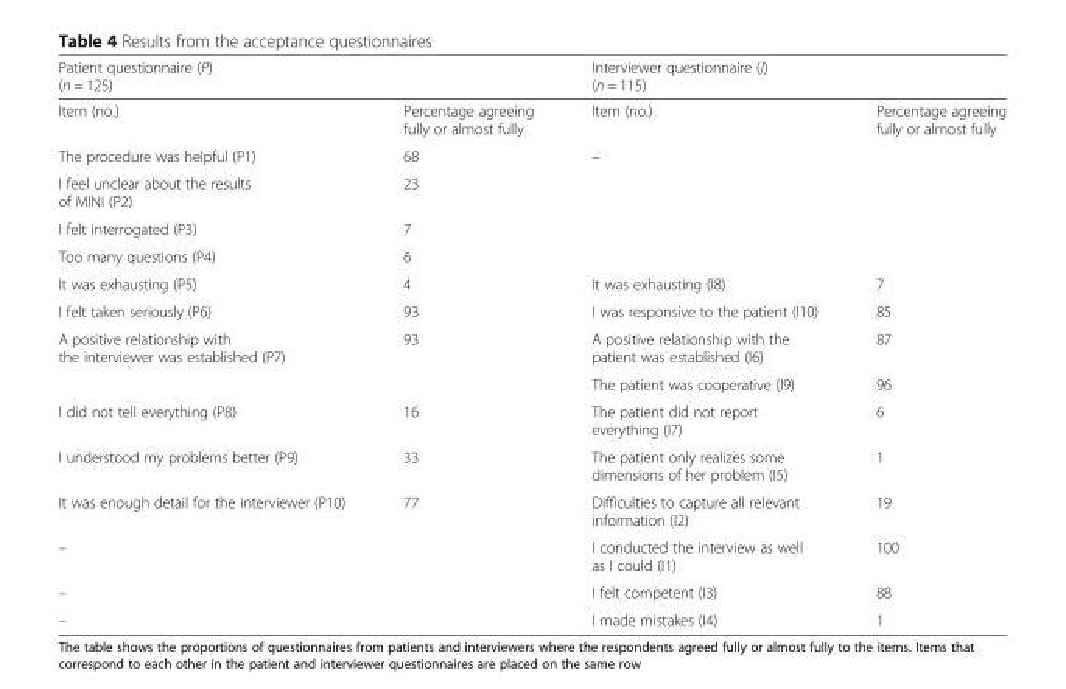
<table><thead><tr><td colspan="2">Patient questionnaire (P) (n = 125)</td><td colspan="2">Interviewer questionnaire (I) (n = 115)</td></tr><tr><td>Item (no.)</td><td>Percentage agreeing fully or almost fully</td><td>Item (no.)</td><td>Percentage agreeing fully or almost fully</td></tr></thead><tbody><tr><td>The procedure was helpful (P1)</td><td>68</td><td rowspan="4">–</td><td rowspan="4"></td></tr><tr><td>I feel unclear about the results of MINI (P2)</td><td>23</td></tr><tr><td>I felt interrogated (P3)</td><td>7</td></tr><tr><td>Too many questions (P4)</td><td>6</td></tr><tr><td>It was exhausting (P5)</td><td>4</td><td>It was exhausting (I8)</td><td>7</td></tr><tr><td>I felt taken seriously (P6)</td><td>93</td><td>I was responsive to the patient (I10)</td><td>85</td></tr><tr><td rowspan="2">A positive relationship with the interviewer was established (P7)</td><td>93</td><td>A positive relationship with the patient was established (I6)</td><td>87</td></tr><tr><td></td><td>The patient was cooperative (I9)</td><td>96</td></tr><tr><td>I did not tell everything (P8)</td><td>16</td><td>The patient did not report everything (I7)</td><td>6</td></tr><tr><td>I understood my problems better (P9)</td><td>33</td><td>The patient only realizes some dimensions of her problem (I5)</td><td>1</td></tr><tr><td>It was enough detail for the interviewer (P10)</td><td>77</td><td>Difficulties to capture all relevant information (I2)</td><td>19</td></tr><tr><td>–</td><td></td><td>I conducted the interview as well as I could (I1)</td><td>100</td></tr><tr><td>–</td><td></td><td>I felt competent (I3)</td><td>88</td></tr><tr><td>–</td><td></td><td>I made mistakes (I4)</td><td>1</td></tr></tbody></table>